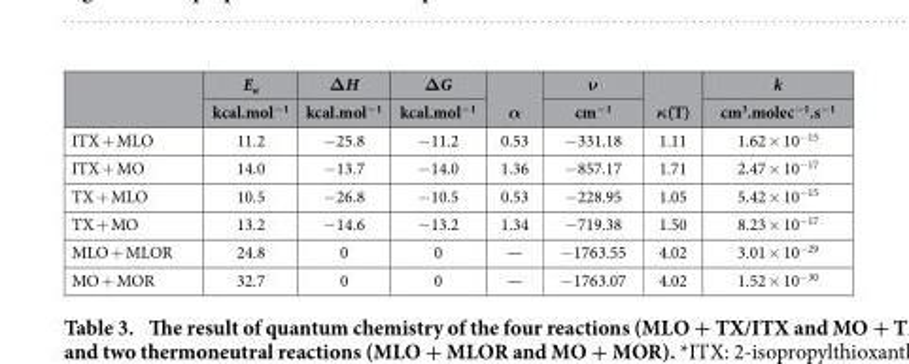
<table><thead><tr><td rowspan="2"></td><td rowspan="2">E<sub>a</sub> kcal.mol<sup>−1</sup></td><td rowspan="2">ΔH kcal.mol<sup>−1</sup></td><td rowspan="2">ΔG kcal.mol<sup>−1</sup></td><td rowspan="2">α</td><td rowspan="2">ν cm<sup>−1</sup></td><td rowspan="2">κ(T)</td><td rowspan="2">k cm<sup>3</sup>.molec<sup>−1</sup>.s<sup>−1</sup></td></tr><tr></tr></thead><tbody><tr><td>ITX + MLO</td><td>11.2</td><td>− 25.8</td><td>− 11.2</td><td>0.53</td><td>− 331.18</td><td>1.11</td><td>1.62 × 10<sup>−15</sup></td></tr><tr><td>ITX + MO</td><td>14.0</td><td>− 13.7</td><td>− 14.0</td><td>1.36</td><td>− 857.17</td><td>1.71</td><td>2.47 × 10<sup>−17</sup></td></tr><tr><td>TX + MLO</td><td>10.5</td><td>− 26.8</td><td>− 10.5</td><td>0.53</td><td>− 228.95</td><td>1.05</td><td>5.42 × 10<sup>−15</sup></td></tr><tr><td>TX + MO</td><td>13.2</td><td>− 14.6</td><td>− 13.2</td><td>1.34</td><td>− 719.38</td><td>1.50</td><td>8.23 × 10<sup>−17</sup></td></tr><tr><td>MLO + MLOR</td><td>24.8</td><td>0</td><td>0</td><td>—</td><td>− 1763.55</td><td>4.02</td><td>3.01 × 10<sup>−29</sup></td></tr><tr><td>MO + MOR</td><td>32.7</td><td>0</td><td>0</td><td>—</td><td>− 1763.07</td><td>4.02</td><td>1.52 × 10<sup>−30</sup></td></tr></tbody></table>